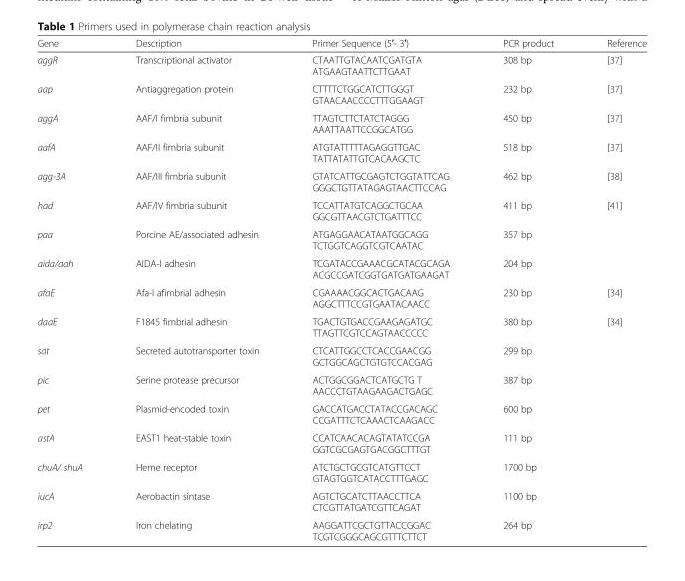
<table><thead><tr><td>Gene</td><td>Description</td><td>Primer Sequence (5′- 3′)</td><td>PCR product</td><td>Reference</td></tr></thead><tbody><tr><td>aggR</td><td>Transcriptional activator</td><td>CTAATTGTACAATCGATGTA ATGAAGTAATTCTTGAAT</td><td>308 bp</td><td>[37]</td></tr><tr><td>aap</td><td>Antiaggregation protein</td><td>CTTTTCTGGCATCTTGGGT GTAACAACCCCTTTGGAAGT</td><td>232 bp</td><td>[37]</td></tr><tr><td>aggA</td><td>AAF/I fimbria subunit</td><td>TTAGTCTTCTATCTAGGG AAATTAATTCCGGCATGG</td><td>450 bp</td><td>[37]</td></tr><tr><td>aafA</td><td>AAF/II fimbria subunit</td><td>ATGTATTTTTAGAGGTTGAC TATTATATTGTCACAAGCTC</td><td>518 bp</td><td>[37]</td></tr><tr><td>agg-3A</td><td>AAF/III fimbria subunit</td><td>GTATCATTGCGAGTCTGGTATTCAG GGGCTGTTATAGAGTAACTTCCAG</td><td>462 bp</td><td>[38]</td></tr><tr><td>had</td><td>AAF/IV fimbria subunit</td><td>TCCATTATGTCAGGCTGCAA GGCGTTAACGTCTGATTTCC</td><td>411 bp</td><td>[41]</td></tr><tr><td>paa</td><td>Porcine AE/associated adhesin</td><td>ATGAGGAACATAATGGCAGG TCTGGTCAGGTCGTCAATAC</td><td>357 bp</td><td></td></tr><tr><td>aida/aah</td><td>AIDA-I adhesin</td><td>TCGATACCGAAACGCATACGCAGA ACGCCGATCGGTGATGATGAAGAT</td><td>204 bp</td><td></td></tr><tr><td>afaE</td><td>Afa-I afimbrial adhesin</td><td>CGAAAACGGCACTGACAAG AGGCTTTCCGTGAATACAACC</td><td>230 bp</td><td>[34]</td></tr><tr><td>daaE</td><td>F1845 fimbrial adhesin</td><td>TGACTGTGACCGAAGAGATGC TTAGTTCGTCCAGTAACCCCC</td><td>380 bp</td><td>[34]</td></tr><tr><td>sat</td><td>Secreted autotransporter toxin</td><td>CTCATTGGCCTCACCGAACGG GCTGGCAGCTGTGTCCACGAG</td><td>299 bp</td><td></td></tr><tr><td>pic</td><td>Serine protease precursor</td><td>ACTGGCGGACTCATGCTG T AACCCTGTAAGAAGACTGAGC</td><td>387 bp</td><td></td></tr><tr><td>pet</td><td>Plasmid-encoded toxin</td><td>GACCATGACCTATACCGACAGC CCGATTTCTCAAACTCAAGACC</td><td>600 bp</td><td></td></tr><tr><td>astA</td><td>EAST1 heat-stable toxin</td><td>CCATCAACACAGTATATCCGA GGTCGCGAGTGACGGCTTTGT</td><td>111 bp</td><td></td></tr><tr><td>chuA/ shuA</td><td>Heme receptor</td><td>ATCTGCTGCGTCATGTTCCT GTAGTGGTCATACCTTTGAGC</td><td>1700 bp</td><td></td></tr><tr><td>iucA</td><td>Aerobactin sintase</td><td>AGTCTGCATCTTAACCTTCA CTCGTTATGATCGTTCAGAT</td><td>1100 bp</td><td></td></tr><tr><td>irp2</td><td>Iron chelating</td><td>AAGGATTCGCTGTTACCGGAC TCGTCGGGCAGCGTTTCTTCT</td><td>264 bp</td><td></td></tr></tbody></table>